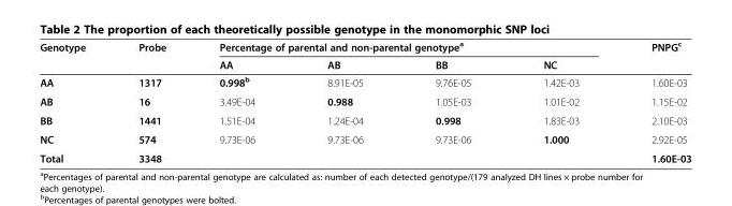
<table><thead><tr><td rowspan="2">Genotype</td><td rowspan="2">Probe</td><td colspan="4">Percentage of parental and non-parental genotype<sup>a</sup></td><td rowspan="2">PNPG<sup>c</sup></td></tr><tr><td>AA</td><td>AB</td><td>BB</td><td>NC</td></tr></thead><tbody><tr><td>AA</td><td>1317</td><td>0.998<sup>b</sup></td><td>8.91E-05</td><td>9.76E-05</td><td>1.42E-03</td><td>1.60E-03</td></tr><tr><td>AB</td><td>16</td><td>3.49E-04</td><td>0.988</td><td>1.05E-03</td><td>1.01E-02</td><td>1.15E-02</td></tr><tr><td>BB</td><td>1441</td><td>1.51E-04</td><td>1.24E-04</td><td>0.998</td><td>1.83E-03</td><td>2.10E-03</td></tr><tr><td>NC</td><td>574</td><td>9.73E-06</td><td>9.73E-06</td><td>9.73E-06</td><td>1.000</td><td>2.92E-05</td></tr><tr><td>Total</td><td>3348</td><td></td><td></td><td></td><td></td><td>1.60E-03</td></tr></tbody></table>